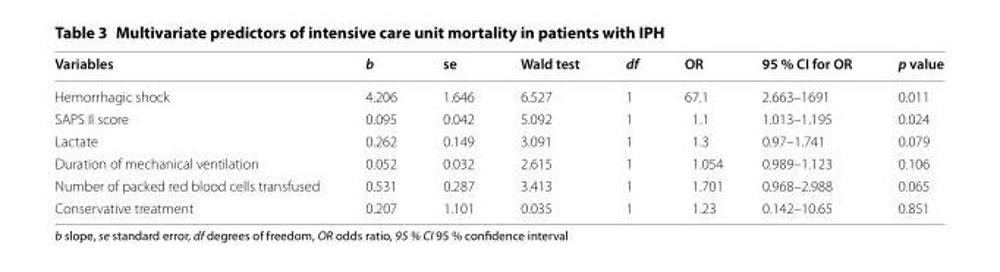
<table><thead><tr><td>Variables</td><td>b</td><td>se</td><td>Wald test</td><td>df</td><td>OR</td><td>95 % CI for OR</td><td>p value</td></tr></thead><tbody><tr><td>Hemorrhagic shock</td><td>4.206</td><td>1.646</td><td>6.527</td><td>1</td><td>67.1</td><td>2.663–1691</td><td>0.011</td></tr><tr><td>SAPS II score</td><td>0.095</td><td>0.042</td><td>5.092</td><td>1</td><td>1.1</td><td>1.013–1.195</td><td>0.024</td></tr><tr><td>Lactate</td><td>0.262</td><td>0.149</td><td>3.091</td><td>1</td><td>1.3</td><td>0.97–1.741</td><td>0.079</td></tr><tr><td>Duration of mechanical ventilation</td><td>0.052</td><td>0.032</td><td>2.615</td><td>1</td><td>1.054</td><td>0.989–1.123</td><td>0.106</td></tr><tr><td>Number of packed red blood cells transfused</td><td>0.531</td><td>0.287</td><td>3.413</td><td>1</td><td>1.701</td><td>0.968–2.988</td><td>0.065</td></tr><tr><td>Conservative treatment</td><td>0.207</td><td>1.101</td><td>0.035</td><td>1</td><td>1.23</td><td>0.142–10.65</td><td>0.851</td></tr></tbody></table>